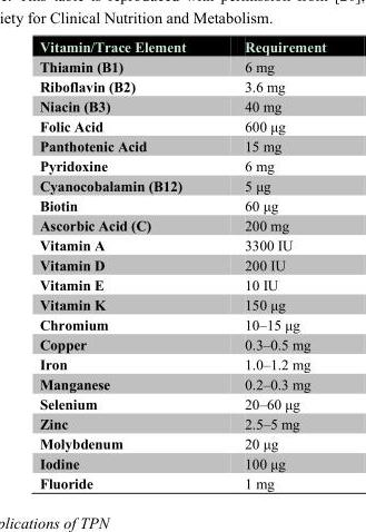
<table><thead><tr><td>Vitamin/Trace Element</td><td>Requirement</td></tr></thead><tbody><tr><td>Thiamin (B1)</td><td>6 mg</td></tr><tr><td>Riboflavin (B2)</td><td>3.6 mg</td></tr><tr><td>Niacin (B3)</td><td>40 mg</td></tr><tr><td>Folic Acid</td><td>600 μg</td></tr><tr><td>Panthotenic Acid</td><td>15 mg</td></tr><tr><td>Pyridoxine</td><td>6 mg</td></tr><tr><td>Cyanocobalamin (B12)</td><td>5 μg</td></tr><tr><td>Biotin</td><td>60 μg</td></tr><tr><td>Ascorbic Acid (C)</td><td>200 mg</td></tr><tr><td>Vitamin A</td><td>3300 IU</td></tr><tr><td>Vitamin D</td><td>200 IU</td></tr><tr><td>Vitamin E</td><td>10 IU</td></tr><tr><td>Vitamin K</td><td>150 μg</td></tr><tr><td>Chromium</td><td>10–15 μg</td></tr><tr><td>Copper</td><td>0.3–0.5 mg</td></tr><tr><td>Iron</td><td>1.0–1.2 mg</td></tr><tr><td>Manganese</td><td>0.2–0.3 mg</td></tr><tr><td>Selenium</td><td>20–60 μg</td></tr><tr><td>Zinc</td><td>2.5–5 mg</td></tr><tr><td>Molybdenum</td><td>20 μg</td></tr><tr><td>Iodine</td><td>100 μg</td></tr><tr><td>Fluoride</td><td>1 mg</td></tr></tbody></table>